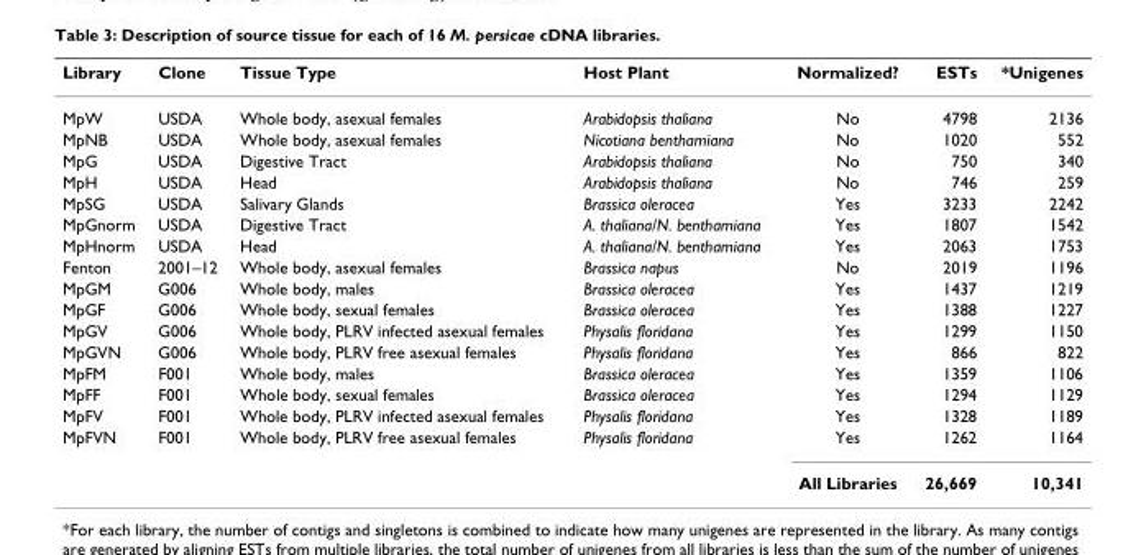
<table><thead><tr><td>Library</td><td>Clone</td><td>Tissue Type</td><td>Host Plant</td><td>Normalized?</td><td>ESTs</td><td>*Unigenes</td></tr></thead><tbody><tr><td>MpW</td><td>USDA</td><td>Whole body, asexual females</td><td>Arabidopsis thaliana</td><td>No</td><td>4798</td><td>2136</td></tr><tr><td>MpNB</td><td>USDA</td><td>Whole body, asexual females</td><td>Nicotiana benthamiana</td><td>No</td><td>1020</td><td>552</td></tr><tr><td>MpG</td><td>USDA</td><td>Digestive Tract</td><td>Arabidopsis thaliana</td><td>No</td><td>750</td><td>340</td></tr><tr><td>MpH</td><td>USDA</td><td>Head</td><td>Arabidopsis thaliana</td><td>No</td><td>746</td><td>259</td></tr><tr><td>MpSG</td><td>USDA</td><td>Salivary Glands</td><td>Brassica oleracea</td><td>Yes</td><td>3233</td><td>2242</td></tr><tr><td>MpGnorm</td><td>USDA</td><td>Digestive Tract</td><td>A. thaliana/N. benthamiana</td><td>Yes</td><td>1807</td><td>1542</td></tr><tr><td>MpHnorm</td><td>USDA</td><td>Head</td><td>A. thaliana/N. benthamiana</td><td>Yes</td><td>2063</td><td>1753</td></tr><tr><td>Fenton</td><td>2001–12</td><td>Whole body, asexual females</td><td>Brassica napus</td><td>No</td><td>2019</td><td>1196</td></tr><tr><td>MpGM</td><td>G006</td><td>Whole body, males</td><td>Brassica oleracea</td><td>Yes</td><td>1437</td><td>1219</td></tr><tr><td>MpGF</td><td>G006</td><td>Whole body, sexual females</td><td>Brassica oleracea</td><td>Yes</td><td>1388</td><td>1227</td></tr><tr><td>MpGV</td><td>G006</td><td>Whole body, PLRV infected asexual females</td><td>Physalis floridana</td><td>Yes</td><td>1299</td><td>1150</td></tr><tr><td>MpGVN</td><td>G006</td><td>Whole body, PLRV free asexual females</td><td>Physalis floridana</td><td>Yes</td><td>866</td><td>822</td></tr><tr><td>MpFM</td><td>F001</td><td>Whole body, males</td><td>Brassica oleracea</td><td>Yes</td><td>1359</td><td>1106</td></tr><tr><td>MpFF</td><td>F001</td><td>Whole body, sexual females</td><td>Brassica oleracea</td><td>Yes</td><td>1294</td><td>1129</td></tr><tr><td>MpFV</td><td>F001</td><td>Whole body, PLRV infected asexual females</td><td>Physalis floridana</td><td>Yes</td><td>1328</td><td>1189</td></tr><tr><td rowspan="2">MpFVN</td><td>F001</td><td>Whole body, PLRV free asexual females</td><td>Physalis floridana</td><td>Yes</td><td>1262</td><td>1164</td></tr><tr><td></td><td></td><td></td><td>All Libraries</td><td>26,669</td><td>10,341</td></tr></tbody></table>